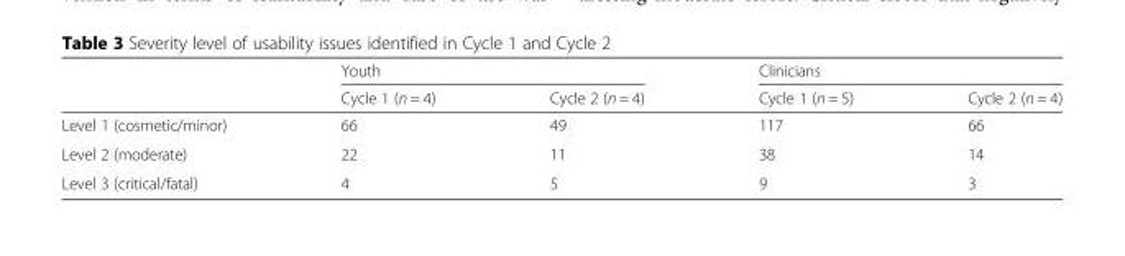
<table><thead><tr><td rowspan="2"></td><td colspan="2">Youth</td><td colspan="2">Clinicians</td></tr><tr><td>Cycle 1 (n = 4)</td><td>Cycle 2 (n = 4)</td><td>Cycle 1 (n = 5)</td><td>Cycle 2 (n = 4)</td></tr></thead><tbody><tr><td>Level 1 (cosmetic/minor)</td><td>66</td><td>49</td><td>117</td><td>66</td></tr><tr><td>Level 2 (moderate)</td><td>22</td><td>11</td><td>38</td><td>14</td></tr><tr><td>Level 3 (critical/fatal)</td><td>4</td><td>5</td><td>9</td><td>3</td></tr></tbody></table>